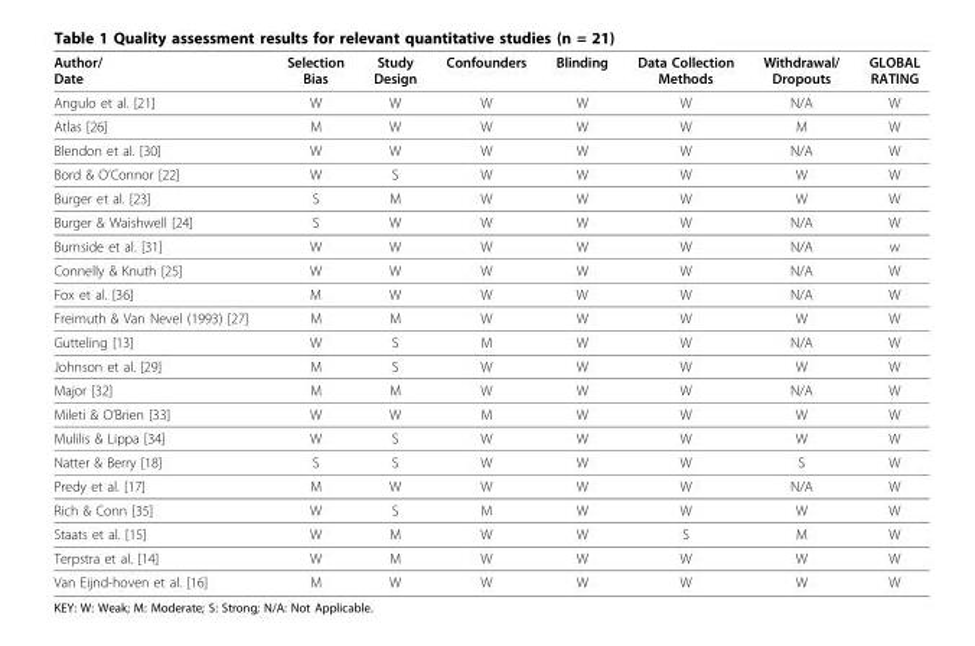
<table><thead><tr><td>Author/ Date</td><td>Selection Bias</td><td>Study Design</td><td>Confounders</td><td>Blinding</td><td>Data Collection Methods</td><td>Withdrawal/ Dropouts</td><td>GLOBAL RATING</td></tr></thead><tbody><tr><td>Angulo et al. [21]</td><td>W</td><td>W</td><td>W</td><td>W</td><td>W</td><td>N/A</td><td>W</td></tr><tr><td>Atlas [26]</td><td>M</td><td>W</td><td>W</td><td>W</td><td>W</td><td>M</td><td>W</td></tr><tr><td>Blendon et al. [30]</td><td>W</td><td>W</td><td>W</td><td>W</td><td>W</td><td>N/A</td><td>W</td></tr><tr><td>Bord &amp; O’Connor [22]</td><td>W</td><td>S</td><td>W</td><td>W</td><td>W</td><td>W</td><td>W</td></tr><tr><td>Burger et al. [23]</td><td>S</td><td>M</td><td>W</td><td>W</td><td>W</td><td>W</td><td>W</td></tr><tr><td>Burger &amp; Waishwell [24]</td><td>S</td><td>W</td><td>W</td><td>W</td><td>W</td><td>N/A</td><td>W</td></tr><tr><td>Burnside et al. [31]</td><td>W</td><td>W</td><td>W</td><td>W</td><td>W</td><td>N/A</td><td>w</td></tr><tr><td>Connelly &amp; Knuth [25]</td><td>W</td><td>W</td><td>W</td><td>W</td><td>W</td><td>N/A</td><td>W</td></tr><tr><td>Fox et al. [36]</td><td>M</td><td>W</td><td>W</td><td>W</td><td>W</td><td>N/A</td><td>W</td></tr><tr><td>Freimuth &amp; Van Nevel (1993) [27]</td><td>M</td><td>M</td><td>W</td><td>W</td><td>W</td><td>W</td><td>W</td></tr><tr><td>Gutteling [13]</td><td>W</td><td>S</td><td>M</td><td>W</td><td>W</td><td>N/A</td><td>W</td></tr><tr><td>Johnson et al. [29]</td><td>M</td><td>S</td><td>W</td><td>W</td><td>W</td><td>W</td><td>W</td></tr><tr><td>Major [32]</td><td>M</td><td>M</td><td>W</td><td>W</td><td>W</td><td>N/A</td><td>W</td></tr><tr><td>Mileti &amp; O’Brien [33]</td><td>W</td><td>W</td><td>M</td><td>W</td><td>W</td><td>W</td><td>W</td></tr><tr><td>Mulilis &amp; Lippa [34]</td><td>W</td><td>S</td><td>W</td><td>W</td><td>W</td><td>W</td><td>W</td></tr><tr><td>Natter &amp; Berry [18]</td><td>S</td><td>S</td><td>W</td><td>W</td><td>W</td><td>S</td><td>W</td></tr><tr><td>Predy et al. [17]</td><td>M</td><td>W</td><td>W</td><td>W</td><td>W</td><td>N/A</td><td>W</td></tr><tr><td>Rich &amp; Conn [35]</td><td>W</td><td>S</td><td>M</td><td>W</td><td>W</td><td>W</td><td>W</td></tr><tr><td>Staats et al. [15]</td><td>W</td><td>M</td><td>W</td><td>W</td><td>S</td><td>M</td><td>W</td></tr><tr><td>Terpstra et al. [14]</td><td>W</td><td>M</td><td>W</td><td>W</td><td>W</td><td>W</td><td>W</td></tr><tr><td>Van Eijnd-hoven et al. [16]</td><td>M</td><td>W</td><td>W</td><td>W</td><td>W</td><td>W</td><td>W</td></tr></tbody></table>